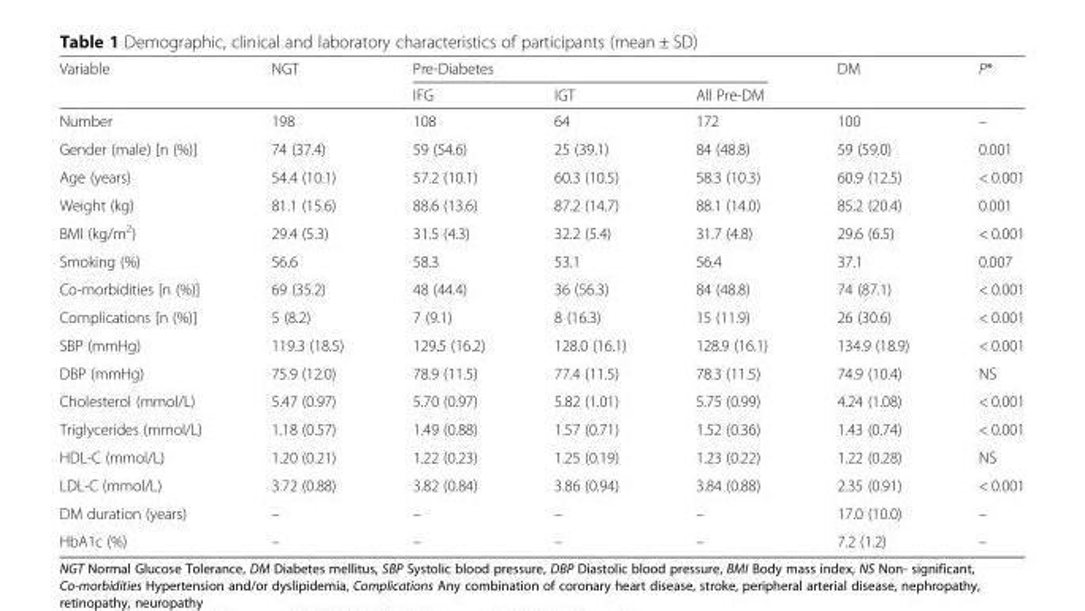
<table><thead><tr><td rowspan="2">Variable</td><td rowspan="2">NGT</td><td colspan="3">Pre-Diabetes</td><td rowspan="2">DM</td><td rowspan="2">P*</td></tr><tr><td>IFG</td><td>IGT</td><td>All Pre-DM</td></tr></thead><tbody><tr><td>Number</td><td>198</td><td>108</td><td>64</td><td>172</td><td>100</td><td>–</td></tr><tr><td>Gender (male) [n (%)]</td><td>74 (37.4)</td><td>59 (54.6)</td><td>25 (39.1)</td><td>84 (48.8)</td><td>59 (59.0)</td><td>0.001</td></tr><tr><td>Age (years)</td><td>54.4 (10.1)</td><td>57.2 (10.1)</td><td>60.3 (10.5)</td><td>58.3 (10.3)</td><td>60.9 (12.5)</td><td>&lt; 0.001</td></tr><tr><td>Weight (kg)</td><td>81.1 (15.6)</td><td>88.6 (13.6)</td><td>87.2 (14.7)</td><td>88.1 (14.0)</td><td>85.2 (20.4)</td><td>0.001</td></tr><tr><td>BMI (kg/m<sup>2</sup>)</td><td>29.4 (5.3)</td><td>31.5 (4.3)</td><td>32.2 (5.4)</td><td>31.7 (4.8)</td><td>29.6 (6.5)</td><td>&lt; 0.001</td></tr><tr><td>Smoking (%)</td><td>56.6</td><td>58.3</td><td>53.1</td><td>56.4</td><td>37.1</td><td>0.007</td></tr><tr><td>Co-morbidities [n (%)]</td><td>69 (35.2)</td><td>48 (44.4)</td><td>36 (56.3)</td><td>84 (48.8)</td><td>74 (87.1)</td><td>&lt; 0.001</td></tr><tr><td>Complications [n (%)]</td><td>5 (8.2)</td><td>7 (9.1)</td><td>8 (16.3)</td><td>15 (11.9)</td><td>26 (30.6)</td><td>&lt; 0.001</td></tr><tr><td>SBP (mmHg)</td><td>119.3 (18.5)</td><td>129.5 (16.2)</td><td>128.0 (16.1)</td><td>128.9 (16.1)</td><td>134.9 (18.9)</td><td>&lt; 0.001</td></tr><tr><td>DBP (mmHg)</td><td>75.9 (12.0)</td><td>78.9 (11.5)</td><td>77.4 (11.5)</td><td>78.3 (11.5)</td><td>74.9 (10.4)</td><td>NS</td></tr><tr><td>Cholesterol (mmol/L)</td><td>5.47 (0.97)</td><td>5.70 (0.97)</td><td>5.82 (1.01)</td><td>5.75 (0.99)</td><td>4.24 (1.08)</td><td>&lt; 0.001</td></tr><tr><td>Triglycerides (mmol/L)</td><td>1.18 (0.57)</td><td>1.49 (0.88)</td><td>1.57 (0.71)</td><td>1.52 (0.36)</td><td>1.43 (0.74)</td><td>&lt; 0.001</td></tr><tr><td>HDL-C (mmol/L)</td><td>1.20 (0.21)</td><td>1.22 (0.23)</td><td>1.25 (0.19)</td><td>1.23 (0.22)</td><td>1.22 (0.28)</td><td>NS</td></tr><tr><td>LDL-C (mmol/L)</td><td>3.72 (0.88)</td><td>3.82 (0.84)</td><td>3.86 (0.94)</td><td>3.84 (0.88)</td><td>2.35 (0.91)</td><td>&lt; 0.001</td></tr><tr><td>DM duration (years)</td><td>–</td><td>–</td><td>–</td><td>–</td><td>17.0 (10.0)</td><td>–</td></tr><tr><td>HbA1c (%)</td><td>–</td><td>–</td><td>–</td><td>–</td><td>7.2 (1.2)</td><td>–</td></tr></tbody></table>